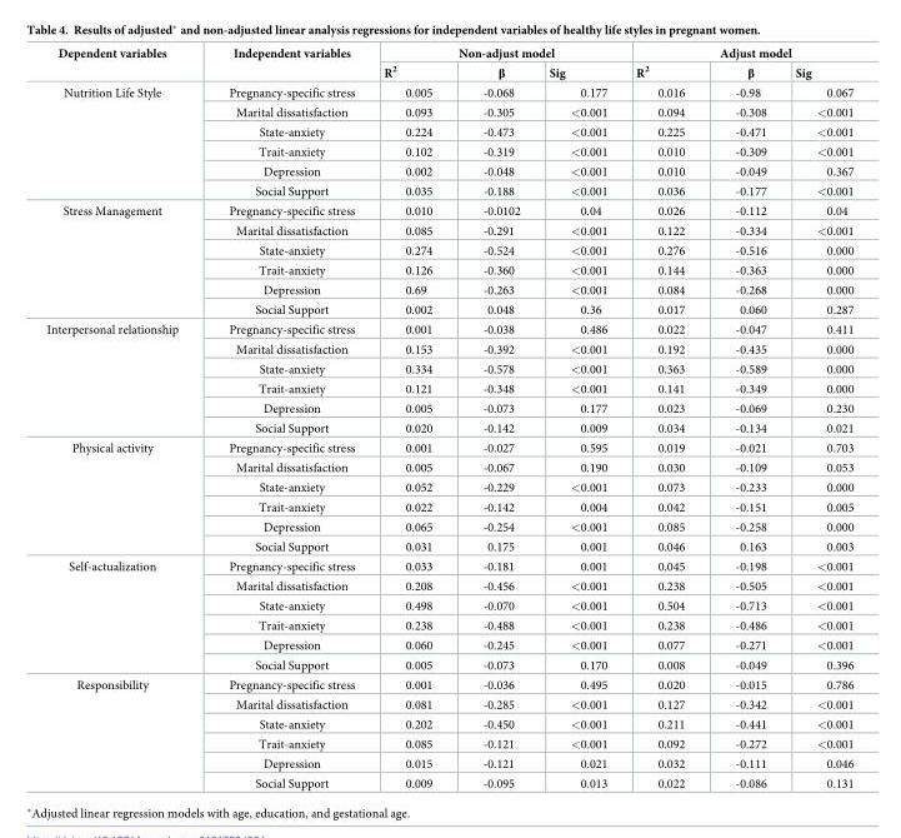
<table><thead><tr><td rowspan="2">Dependent variables</td><td rowspan="2">Independent variables</td><td colspan="3">Non-adjust model</td><td colspan="3">Adjust model</td></tr><tr><td>R<sup>2</sup></td><td>β</td><td>Sig</td><td>R<sup>2</sup></td><td>β</td><td>Sig</td></tr></thead><tbody><tr><td rowspan="6">Nutrition Life Style</td><td>Pregnancy-specific stress</td><td>0.005</td><td>-0.068</td><td>0.177</td><td>0.016</td><td>-0.98</td><td>0.067</td></tr><tr><td>Marital dissatisfaction</td><td>0.093</td><td>-0.305</td><td>&lt;0.001</td><td>0.094</td><td>-0.308</td><td>&lt;0.001</td></tr><tr><td>State-anxiety</td><td>0.224</td><td>-0.473</td><td>&lt;0.001</td><td>0.225</td><td>-0.471</td><td>&lt;0.001</td></tr><tr><td>Trait-anxiety</td><td>0.102</td><td>-0.319</td><td>&lt;0.001</td><td>0.010</td><td>-0.309</td><td>&lt;0.001</td></tr><tr><td>Depression</td><td>0.002</td><td>-0.048</td><td>&lt;0.001</td><td>0.010</td><td>-0.049</td><td>0.367</td></tr><tr><td>Social Support</td><td>0.035</td><td>-0.188</td><td>&lt;0.001</td><td>0.036</td><td>-0.177</td><td>&lt;0.001</td></tr><tr><td rowspan="6">Stress Management</td><td>Pregnancy-specific stress</td><td>0.010</td><td>-0.0102</td><td>0.04</td><td>0.026</td><td>-0.112</td><td>0.04</td></tr><tr><td>Marital dissatisfaction</td><td>0.085</td><td>-0.291</td><td>&lt;0.001</td><td>0.122</td><td>-0.334</td><td>&lt;0.001</td></tr><tr><td>State-anxiety</td><td>0.274</td><td>-0.524</td><td>&lt;0.001</td><td>0.276</td><td>-0.516</td><td>0.000</td></tr><tr><td>Trait-anxiety</td><td>0.126</td><td>-0.360</td><td>&lt;0.001</td><td>0.144</td><td>-0.363</td><td>0.000</td></tr><tr><td>Depression</td><td>0.69</td><td>-0.263</td><td>&lt;0.001</td><td>0.084</td><td>-0.268</td><td>0.000</td></tr><tr><td>Social Support</td><td>0.002</td><td>0.048</td><td>0.36</td><td>0.017</td><td>0.060</td><td>0.287</td></tr><tr><td rowspan="6">Interpersonal relationship</td><td>Pregnancy-specific stress</td><td>0.001</td><td>-0.038</td><td>0.486</td><td>0.022</td><td>-0.047</td><td>0.411</td></tr><tr><td>Marital dissatisfaction</td><td>0.153</td><td>-0.392</td><td>&lt;0.001</td><td>0.192</td><td>-0.435</td><td>0.000</td></tr><tr><td>State-anxiety</td><td>0.334</td><td>-0.578</td><td>&lt;0.001</td><td>0.363</td><td>-0.589</td><td>0.000</td></tr><tr><td>Trait-anxiety</td><td>0.121</td><td>-0.348</td><td>&lt;0.001</td><td>0.141</td><td>-0.349</td><td>0.000</td></tr><tr><td>Depression</td><td>0.005</td><td>-0.073</td><td>0.177</td><td>0.023</td><td>-0.069</td><td>0.230</td></tr><tr><td>Social Support</td><td>0.020</td><td>-0.142</td><td>0.009</td><td>0.034</td><td>-0.134</td><td>0.021</td></tr><tr><td rowspan="6">Physical activity</td><td>Pregnancy-specific stress</td><td>0.001</td><td>-0.027</td><td>0.595</td><td>0.019</td><td>-0.021</td><td>0.703</td></tr><tr><td>Marital dissatisfaction</td><td>0.005</td><td>-0.067</td><td>0.190</td><td>0.030</td><td>-0.109</td><td>0.053</td></tr><tr><td>State-anxiety</td><td>0.052</td><td>-0.229</td><td>&lt;0.001</td><td>0.073</td><td>-0.233</td><td>0.000</td></tr><tr><td>Trait-anxiety</td><td>0.022</td><td>-0.142</td><td>0.004</td><td>0.042</td><td>-0.151</td><td>0.005</td></tr><tr><td>Depression</td><td>0.065</td><td>-0.254</td><td>&lt;0.001</td><td>0.085</td><td>-0.258</td><td>0.000</td></tr><tr><td>Social Support</td><td>0.031</td><td>0.175</td><td>0.001</td><td>0.046</td><td>0.163</td><td>0.003</td></tr><tr><td rowspan="6">Self-actualization</td><td>Pregnancy-specific stress</td><td>0.033</td><td>-0.181</td><td>0.001</td><td>0.045</td><td>-0.198</td><td>&lt;0.001</td></tr><tr><td>Marital dissatisfaction</td><td>0.208</td><td>-0.456</td><td>&lt;0.001</td><td>0.238</td><td>-0.505</td><td>&lt;0.001</td></tr><tr><td>State-anxiety</td><td>0.498</td><td>-0.070</td><td>&lt;0.001</td><td>0.504</td><td>-0.713</td><td>&lt;0.001</td></tr><tr><td>Trait-anxiety</td><td>0.238</td><td>-0.488</td><td>&lt;0.001</td><td>0.238</td><td>-0.486</td><td>&lt;0.001</td></tr><tr><td>Depression</td><td>0.060</td><td>-0.245</td><td>&lt;0.001</td><td>0.077</td><td>-0.271</td><td>&lt;0.001</td></tr><tr><td>Social Support</td><td>0.005</td><td>-0.073</td><td>0.170</td><td>0.008</td><td>-0.049</td><td>0.396</td></tr><tr><td rowspan="6">Responsibility</td><td>Pregnancy-specific stress</td><td>0.001</td><td>-0.036</td><td>0.495</td><td>0.020</td><td>-0.015</td><td>0.786</td></tr><tr><td>Marital dissatisfaction</td><td>0.081</td><td>-0.285</td><td>&lt;0.001</td><td>0.127</td><td>-0.342</td><td>&lt;0.001</td></tr><tr><td>State-anxiety</td><td>0.202</td><td>-0.450</td><td>&lt;0.001</td><td>0.211</td><td>-0.441</td><td>&lt;0.001</td></tr><tr><td>Trait-anxiety</td><td>0.085</td><td>-0.121</td><td>&lt;0.001</td><td>0.092</td><td>-0.272</td><td>&lt;0.001</td></tr><tr><td>Depression</td><td>0.015</td><td>-0.121</td><td>0.021</td><td>0.032</td><td>-0.111</td><td>0.046</td></tr><tr><td>Social Support</td><td>0.009</td><td>-0.095</td><td>0.013</td><td>0.022</td><td>-0.086</td><td>0.131</td></tr></tbody></table>